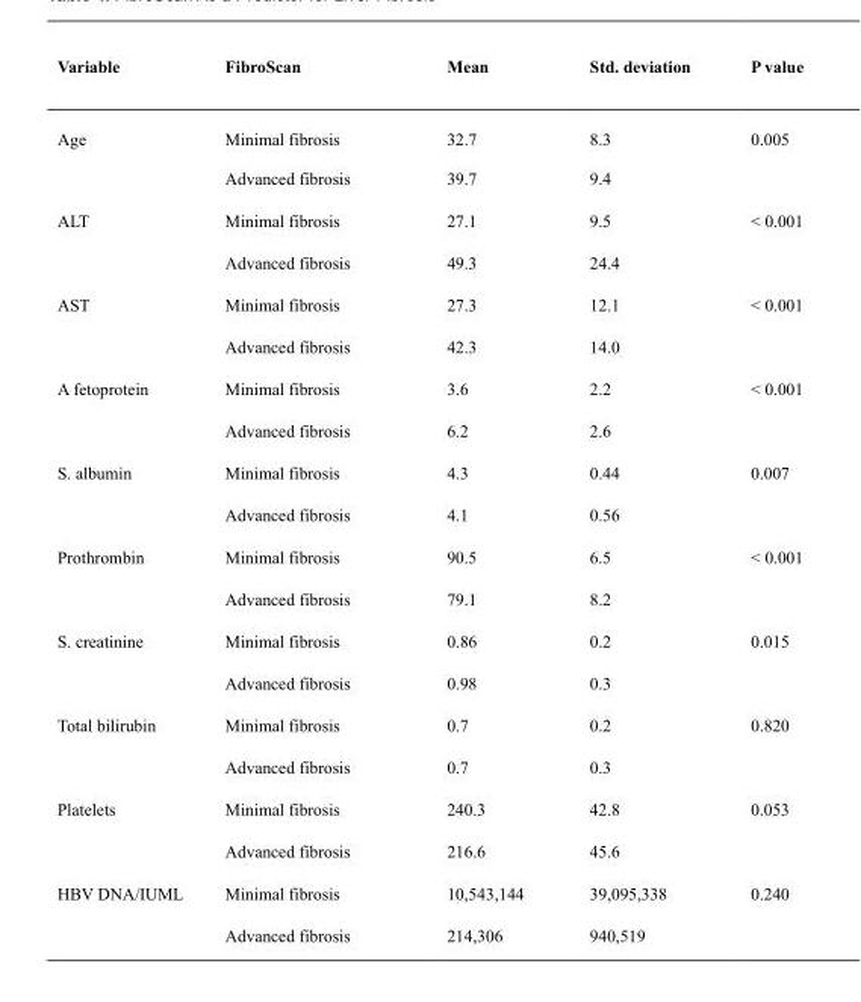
<table><thead><tr><td>Variable</td><td>FibroScan</td><td>Mean</td><td>Std. deviation</td><td>P value</td></tr></thead><tbody><tr><td rowspan="2">Age</td><td>Minimal fibrosis</td><td>32.7</td><td>8.3</td><td rowspan="2">0.005</td></tr><tr><td>Advanced fibrosis</td><td>39.7</td><td>9.4</td></tr><tr><td rowspan="2">ALT</td><td>Minimal fibrosis</td><td>27.1</td><td>9.5</td><td rowspan="2">&lt; 0.001</td></tr><tr><td>Advanced fibrosis</td><td>49.3</td><td>24.4</td></tr><tr><td rowspan="2">AST</td><td>Minimal fibrosis</td><td>27.3</td><td>12.1</td><td rowspan="2">&lt; 0.001</td></tr><tr><td>Advanced fibrosis</td><td>42.3</td><td>14.0</td></tr><tr><td rowspan="2">A fetoprotein</td><td>Minimal fibrosis</td><td>3.6</td><td>2.2</td><td rowspan="2">&lt; 0.001</td></tr><tr><td>Advanced fibrosis</td><td>6.2</td><td>2.6</td></tr><tr><td rowspan="2">S. albumin</td><td>Minimal fibrosis</td><td>4.3</td><td>0.44</td><td rowspan="2">0.007</td></tr><tr><td>Advanced fibrosis</td><td>4.1</td><td>0.56</td></tr><tr><td rowspan="2">Prothrombin</td><td>Minimal fibrosis</td><td>90.5</td><td>6.5</td><td rowspan="2">&lt; 0.001</td></tr><tr><td>Advanced fibrosis</td><td>79.1</td><td>8.2</td></tr><tr><td rowspan="2">S. creatinine</td><td>Minimal fibrosis</td><td>0.86</td><td>0.2</td><td rowspan="2">0.015</td></tr><tr><td>Advanced fibrosis</td><td>0.98</td><td>0.3</td></tr><tr><td rowspan="2">Total bilirubin</td><td>Minimal fibrosis</td><td>0.7</td><td>0.2</td><td rowspan="2">0.820</td></tr><tr><td>Advanced fibrosis</td><td>0.7</td><td>0.3</td></tr><tr><td rowspan="2">Platelets</td><td>Minimal fibrosis</td><td>240.3</td><td>42.8</td><td rowspan="2">0.053</td></tr><tr><td>Advanced fibrosis</td><td>216.6</td><td>45.6</td></tr><tr><td rowspan="2">HBV DNA/IUML</td><td>Minimal fibrosis</td><td>10,543,144</td><td>39,095,338</td><td rowspan="2">0.240</td></tr><tr><td>Advanced fibrosis</td><td>214,306</td><td>940,519</td></tr></tbody></table>